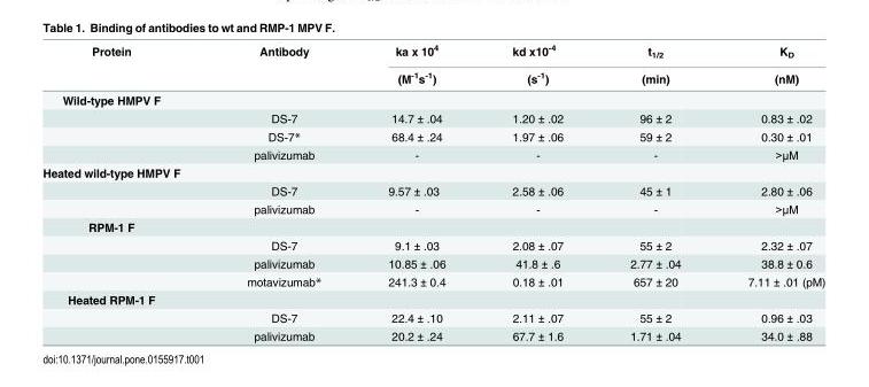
<table><thead><tr><td rowspan="2">Protein</td><td rowspan="2">Antibody</td><td rowspan="2">ka x 10<sup>4</sup> (M<sup>-1</sup>s<sup>-1</sup>)</td><td rowspan="2">kd x10<sup>-4</sup> (s<sup>-1</sup>)</td><td rowspan="2">t<sub>1/2</sub> (min)</td><td rowspan="2">K<sub>D</sub> (nM)</td></tr><tr></tr></thead><tbody><tr><td colspan="6">Wild-type HMPV F</td></tr><tr><td></td><td>DS-7</td><td>14.7 ± .04</td><td>1.20 ± .02</td><td>96 ± 2</td><td>0.83 ± .02</td></tr><tr><td></td><td>DS-7*</td><td>68.4 ± .24</td><td>1.97 ± .06</td><td>59 ± 2</td><td>0.30 ± .01</td></tr><tr><td></td><td>palivizumab</td><td>-</td><td>-</td><td>-</td><td>&gt;μM</td></tr><tr><td colspan="6">Heated wild-type HMPV F</td></tr><tr><td></td><td>DS-7</td><td>9.57 ± .03</td><td>2.58 ± .06</td><td>45 ± 1</td><td>2.80 ± .06</td></tr><tr><td></td><td>palivizumab</td><td>-</td><td>-</td><td>-</td><td>&gt;μM</td></tr><tr><td colspan="6">RPM-1 F</td></tr><tr><td></td><td>DS-7</td><td>9.1 ± .03</td><td>2.08 ± .07</td><td>55 ± 2</td><td>2.32 ± .07</td></tr><tr><td></td><td>palivizumab</td><td>10.85 ± .06</td><td>41.8 ± .6</td><td>2.77 ± .04</td><td>38.8 ± 0.6</td></tr><tr><td></td><td>motavizumab*</td><td>241.3 ± 0.4</td><td>0.18 ± .01</td><td>657 ± 20</td><td>7.11 ± .01 (pM)</td></tr><tr><td colspan="6">Heated RPM-1 F</td></tr><tr><td></td><td>DS-7</td><td>22.4 ± .10</td><td>2.11 ± .07</td><td>55 ± 2</td><td>0.96 ± .03</td></tr><tr><td></td><td>palivizumab</td><td>20.2 ± .24</td><td>67.7 ± 1.6</td><td>1.71 ± .04</td><td>34.0 ± .88</td></tr></tbody></table>